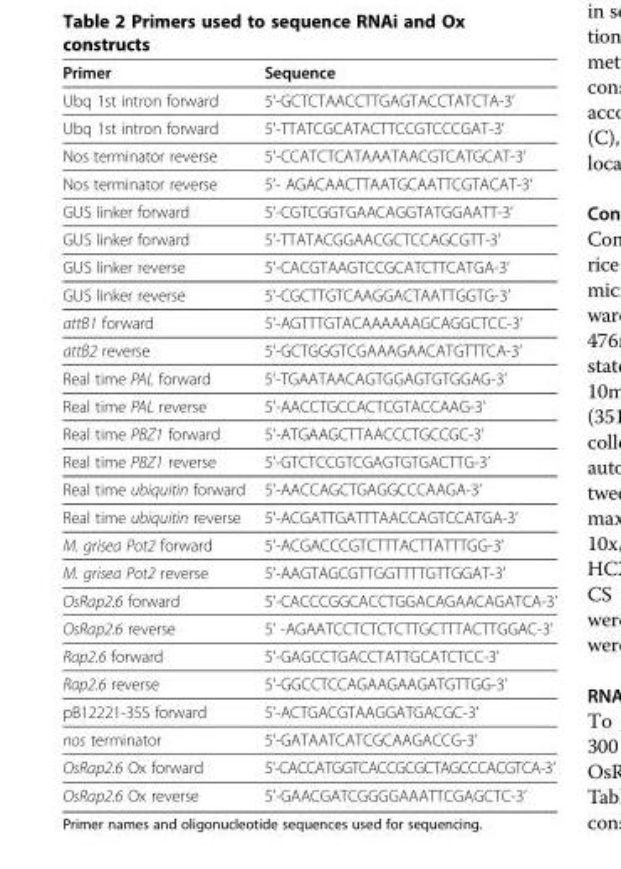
<table><thead><tr><td>Primer</td><td>Sequence</td></tr></thead><tbody><tr><td>Ubq 1st intron forward</td><td>5’-GCTCTAACCTTGAGTACCTATCTA-3’</td></tr><tr><td>Ubq 1st intron forward</td><td>5’-TTATCGCATACTTCCGTCCCGAT-3’</td></tr><tr><td>Nos terminator reverse</td><td>5’-CCATCTCATAAATAACGTCATGCAT-3’</td></tr><tr><td>Nos terminator reverse</td><td>5’- AGACAACTTAATGCAATTCGTACAT-3’</td></tr><tr><td>GUS linker forward</td><td>5’-CGTCGGTGAACAGGTATGGAATT-3’</td></tr><tr><td>GUS linker forward</td><td>5’-TTATACGGAACGCTCCAGCGTT-3’</td></tr><tr><td>GUS linker reverse</td><td>5’-CACGTAAGTCCGCATCTTCATGA-3’</td></tr><tr><td>GUS linker reverse</td><td>5’-CGCTTGTCAAGGACTAATTGGTG-3’</td></tr><tr><td>attB1 forward</td><td>5’-AGTTTGTACAAAAAAGCAGGCTCC-3’</td></tr><tr><td>attB2 reverse</td><td>5’-GCTGGGTCGAAAGAACATGTTTCA-3’</td></tr><tr><td>Real time PAL forward</td><td>5’-TGAATAACAGTGGAGTGTGGAG-3’</td></tr><tr><td>Real time PAL reverse</td><td>5’-AACCTGCCACTCGTACCAAG-3’</td></tr><tr><td>Real time PBZ1 forward</td><td>5’-ATGAAGCTTAACCCTGCCGC-3’</td></tr><tr><td>Real time PBZ1 reverse</td><td>5’-GTCTCCGTCGAGTGTGACTTG-3’</td></tr><tr><td>Real time ubiquitin forward</td><td>5’-AACCAGCTGAGGCCCAAGA-3’</td></tr><tr><td>Real time ubiquitin reverse</td><td>5’-ACGATTGATTTAACCAGTCCATGA-3’</td></tr><tr><td>M. grisea Pot2 forward</td><td>5’-ACGACCCGTCTTTACTTATTTGG-3’</td></tr><tr><td>M. grisea Pot2 reverse</td><td>5’-AAGTAGCGTTGGTTTTGTTGGAT-3’</td></tr><tr><td>OsRap2.6 forward</td><td>5’-CACCCGGCACCTGGACAGAACAGATCA-3’</td></tr><tr><td>OsRap2.6 reverse</td><td>5’ -AGAATCCTCTCTCTTGCTTTACTTGGAC-3’</td></tr><tr><td>Rap2.6 forward</td><td>5’-GAGCCTGACCTATTGCATCTCC-3’</td></tr><tr><td>Rap2.6 reverse</td><td>5’-GGCCTCCAGAAGAAGATGTTGG-3’</td></tr><tr><td>pB12221-35S forward</td><td>5’-ACTGACGTAAGGATGACGC-3’</td></tr><tr><td>nos terminator</td><td>5’-GATAATCATCGCAAGACCG-3’</td></tr><tr><td>OsRap2.6 Ox forward</td><td>5’-CACCATGGTCACCGCGCTAGCCCACGTCA-3’</td></tr><tr><td>OsRap2.6 Ox reverse</td><td>5’-GAACGATCGGGGAAATTCGAGCTC-3’</td></tr></tbody></table>